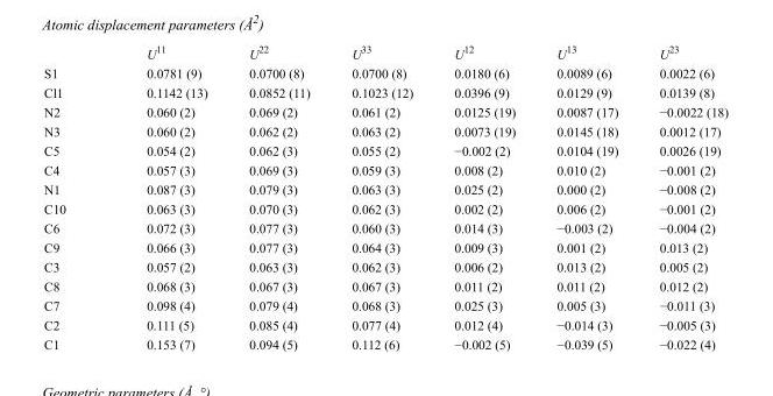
<table><thead><tr><td></td><td>U<sup>11</sup></td><td>U<sup>22</sup></td><td>U<sup>33</sup></td><td>U<sup>12</sup></td><td>U<sup>13</sup></td><td>U<sup>23</sup></td></tr></thead><tbody><tr><td>S1</td><td>0.0781 (9)</td><td>0.0700 (8)</td><td>0.0700 (8)</td><td>0.0180 (6)</td><td>0.0089 (6)</td><td>0.0022 (6)</td></tr><tr><td>Cl1</td><td>0.1142 (13)</td><td>0.0852 (11)</td><td>0.1023 (12)</td><td>0.0396 (9)</td><td>0.0129 (9)</td><td>0.0139 (8)</td></tr><tr><td>N2</td><td>0.060 (2)</td><td>0.069 (2)</td><td>0.061 (2)</td><td>0.0125 (19)</td><td>0.0087 (17)</td><td>−0.0022 (18)</td></tr><tr><td>N3</td><td>0.060 (2)</td><td>0.062 (2)</td><td>0.063 (2)</td><td>0.0073 (19)</td><td>0.0145 (18)</td><td>0.0012 (17)</td></tr><tr><td>C5</td><td>0.054 (2)</td><td>0.062 (3)</td><td>0.055 (2)</td><td>−0.002 (2)</td><td>0.0104 (19)</td><td>0.0026 (19)</td></tr><tr><td>C4</td><td>0.057 (3)</td><td>0.069 (3)</td><td>0.059 (3)</td><td>0.008 (2)</td><td>0.010 (2)</td><td>−0.001 (2)</td></tr><tr><td>N1</td><td>0.087 (3)</td><td>0.079 (3)</td><td>0.063 (3)</td><td>0.025 (2)</td><td>0.000 (2)</td><td>−0.008 (2)</td></tr><tr><td>C10</td><td>0.063 (3)</td><td>0.070 (3)</td><td>0.062 (3)</td><td>0.002 (2)</td><td>0.006 (2)</td><td>−0.001 (2)</td></tr><tr><td>C6</td><td>0.072 (3)</td><td>0.077 (3)</td><td>0.060 (3)</td><td>0.014 (3)</td><td>−0.003 (2)</td><td>−0.004 (2)</td></tr><tr><td>C9</td><td>0.066 (3)</td><td>0.077 (3)</td><td>0.064 (3)</td><td>0.009 (3)</td><td>0.001 (2)</td><td>0.013 (2)</td></tr><tr><td>C3</td><td>0.057 (2)</td><td>0.063 (3)</td><td>0.062 (3)</td><td>0.006 (2)</td><td>0.013 (2)</td><td>0.005 (2)</td></tr><tr><td>C8</td><td>0.068 (3)</td><td>0.067 (3)</td><td>0.067 (3)</td><td>0.011 (2)</td><td>0.011 (2)</td><td>0.012 (2)</td></tr><tr><td>C7</td><td>0.098 (4)</td><td>0.079 (4)</td><td>0.068 (3)</td><td>0.025 (3)</td><td>0.005 (3)</td><td>−0.011 (3)</td></tr><tr><td>C2</td><td>0.111 (5)</td><td>0.085 (4)</td><td>0.077 (4)</td><td>0.012 (4)</td><td>−0.014 (3)</td><td>−0.005 (3)</td></tr><tr><td>C1</td><td>0.153 (7)</td><td>0.094 (5)</td><td>0.112 (6)</td><td>−0.002 (5)</td><td>−0.039 (5)</td><td>−0.022 (4)</td></tr></tbody></table>